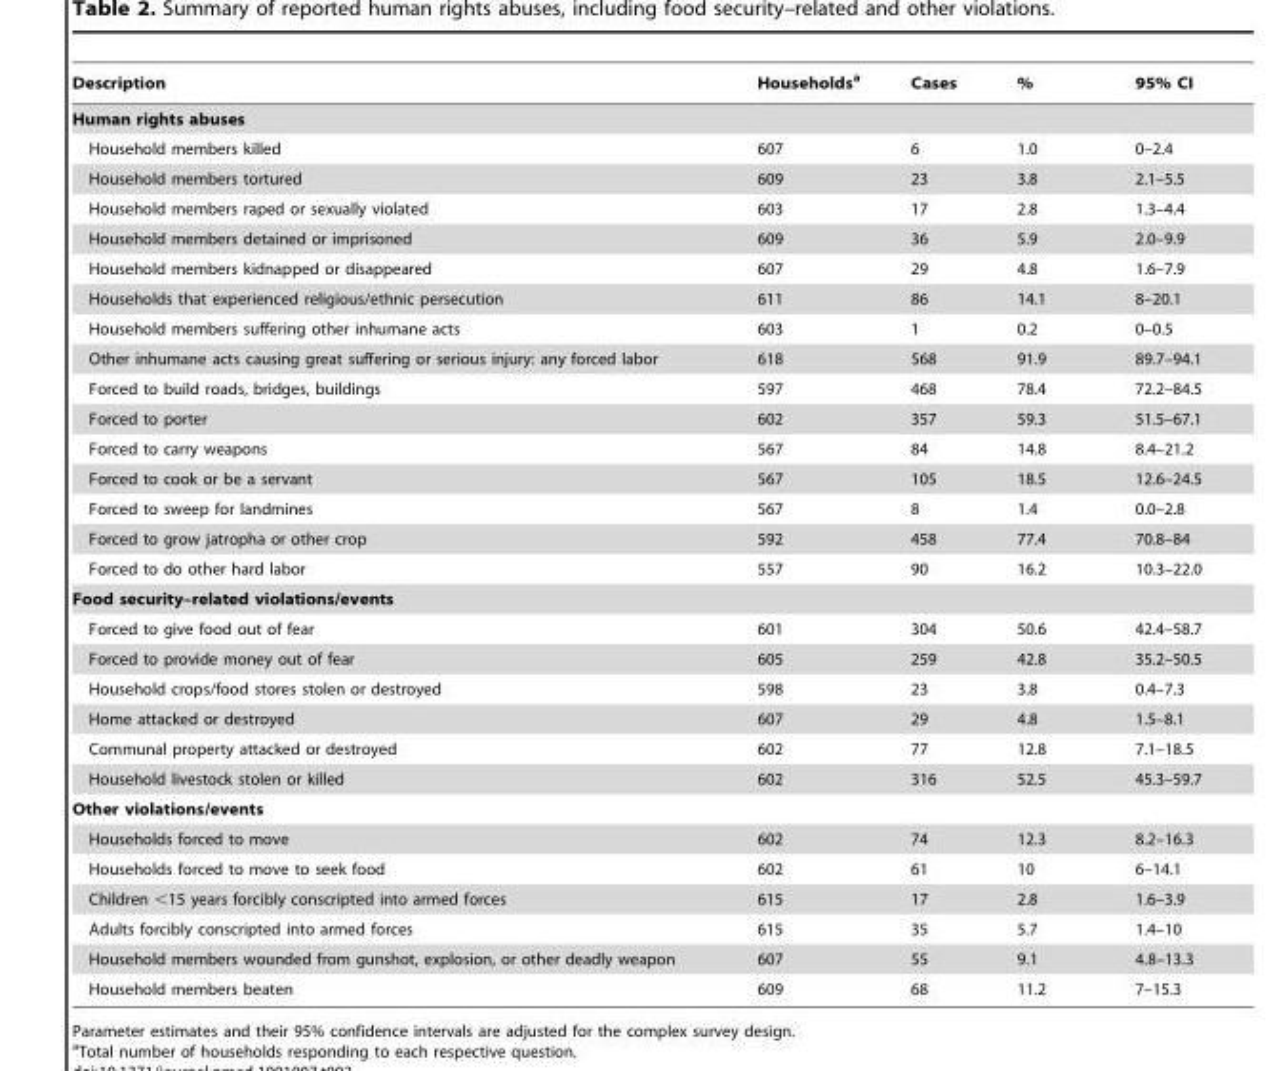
<table><thead><tr><td>Description</td><td>Households<sup>a</sup></td><td>Cases</td><td>%</td><td>95% CI</td></tr></thead><tbody><tr><td colspan="5">Human rights abuses</td></tr><tr><td>Household members killed</td><td>607</td><td>6</td><td>1.0</td><td>0–2.4</td></tr><tr><td>Household members tortured</td><td>609</td><td>23</td><td>3.8</td><td>2.1–5.5</td></tr><tr><td>Household members raped or sexually violated</td><td>603</td><td>17</td><td>2.8</td><td>1.3–4.4</td></tr><tr><td>Household members detained or imprisoned</td><td>609</td><td>36</td><td>5.9</td><td>2.0–9.9</td></tr><tr><td>Household members kidnapped or disappeared</td><td>607</td><td>29</td><td>4.8</td><td>1.6–7.9</td></tr><tr><td>Households that experienced religious/ethnic persecution</td><td>611</td><td>86</td><td>14.1</td><td>8–20.1</td></tr><tr><td>Household members suffering other inhumane acts</td><td>603</td><td>1</td><td>0.2</td><td>0–0.5</td></tr><tr><td>Other inhumane acts causing great suffering or serious injury: any forced labor</td><td>618</td><td>568</td><td>91.9</td><td>89.7–94.1</td></tr><tr><td>Forced to build roads, bridges, buildings</td><td>597</td><td>468</td><td>78.4</td><td>72.2–84.5</td></tr><tr><td>Forced to porter</td><td>602</td><td>357</td><td>59.3</td><td>51.5–67.1</td></tr><tr><td>Forced to carry weapons</td><td>567</td><td>84</td><td>14.8</td><td>8.4–21.2</td></tr><tr><td>Forced to cook or be a servant</td><td>567</td><td>105</td><td>18.5</td><td>12.6–24.5</td></tr><tr><td>Forced to sweep for landmines</td><td>567</td><td>8</td><td>1.4</td><td>0.0–2.8</td></tr><tr><td>Forced to grow jatropha or other crop</td><td>592</td><td>458</td><td>77.4</td><td>70.8–84</td></tr><tr><td>Forced to do other hard labor</td><td>557</td><td>90</td><td>16.2</td><td>10.3–22.0</td></tr><tr><td colspan="5">Food security–related violations/events</td></tr><tr><td>Forced to give food out of fear</td><td>601</td><td>304</td><td>50.6</td><td>42.4–58.7</td></tr><tr><td>Forced to provide money out of fear</td><td>605</td><td>259</td><td>42.8</td><td>35.2–50.5</td></tr><tr><td>Household crops/food stores stolen or destroyed</td><td>598</td><td>23</td><td>3.8</td><td>0.4–7.3</td></tr><tr><td>Home attacked or destroyed</td><td>607</td><td>29</td><td>4.8</td><td>1.5–8.1</td></tr><tr><td>Communal property attacked or destroyed</td><td>602</td><td>77</td><td>12.8</td><td>7.1–18.5</td></tr><tr><td>Household livestock stolen or killed</td><td>602</td><td>316</td><td>52.5</td><td>45.3–59.7</td></tr><tr><td colspan="5">Other violations/events</td></tr><tr><td>Households forced to move</td><td>602</td><td>74</td><td>12.3</td><td>8.2–16.3</td></tr><tr><td>Households forced to move to seek food</td><td>602</td><td>61</td><td>10</td><td>6–14.1</td></tr><tr><td>Children &lt;15 years forcibly conscripted into armed forces</td><td>615</td><td>17</td><td>2.8</td><td>1.6–3.9</td></tr><tr><td>Adults forcibly conscripted into armed forces</td><td>615</td><td>35</td><td>5.7</td><td>1.4–10</td></tr><tr><td>Household members wounded from gunshot, explosion, or other deadly weapon</td><td>607</td><td>55</td><td>9.1</td><td>4.8–13.3</td></tr><tr><td>Household members beaten</td><td>609</td><td>68</td><td>11.2</td><td>7–15.3</td></tr></tbody></table>